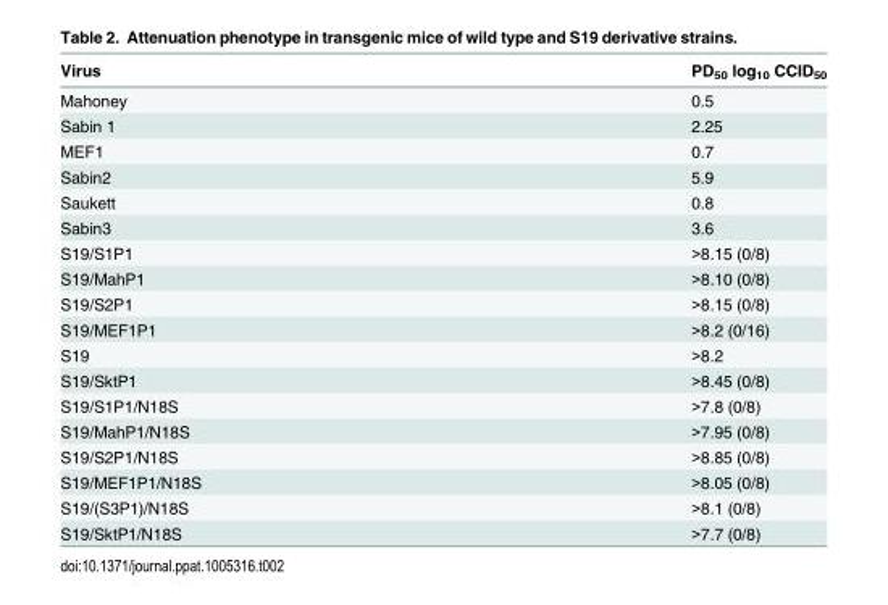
<table><thead><tr><td>Virus</td><td>PD<sub>50</sub> log<sub>10</sub> CCID<sub>50</sub></td></tr></thead><tbody><tr><td>Mahoney</td><td>0.5</td></tr><tr><td>Sabin 1</td><td>2.25</td></tr><tr><td>MEF1</td><td>0.7</td></tr><tr><td>Sabin2</td><td>5.9</td></tr><tr><td>Saukett</td><td>0.8</td></tr><tr><td>Sabin3</td><td>3.6</td></tr><tr><td>S19/S1P1</td><td>&gt;8.15 (0/8)</td></tr><tr><td>S19/MahP1</td><td>&gt;8.10 (0/8)</td></tr><tr><td>S19/S2P1</td><td>&gt;8.15 (0/8)</td></tr><tr><td>S19/MEF1P1</td><td>&gt;8.2 (0/16)</td></tr><tr><td>S19</td><td>&gt;8.2</td></tr><tr><td>S19/SktP1</td><td>&gt;8.45 (0/8)</td></tr><tr><td>S19/S1P1/N18S</td><td>&gt;7.8 (0/8)</td></tr><tr><td>S19/MahP1/N18S</td><td>&gt;7.95 (0/8)</td></tr><tr><td>S19/S2P1/N18S</td><td>&gt;8.85 (0/8)</td></tr><tr><td>S19/MEF1P1/N18S</td><td>&gt;8.05 (0/8)</td></tr><tr><td>S19/(S3P1)/N18S</td><td>&gt;8.1 (0/8)</td></tr><tr><td>S19/SktP1/N18S</td><td>&gt;7.7 (0/8)</td></tr></tbody></table>